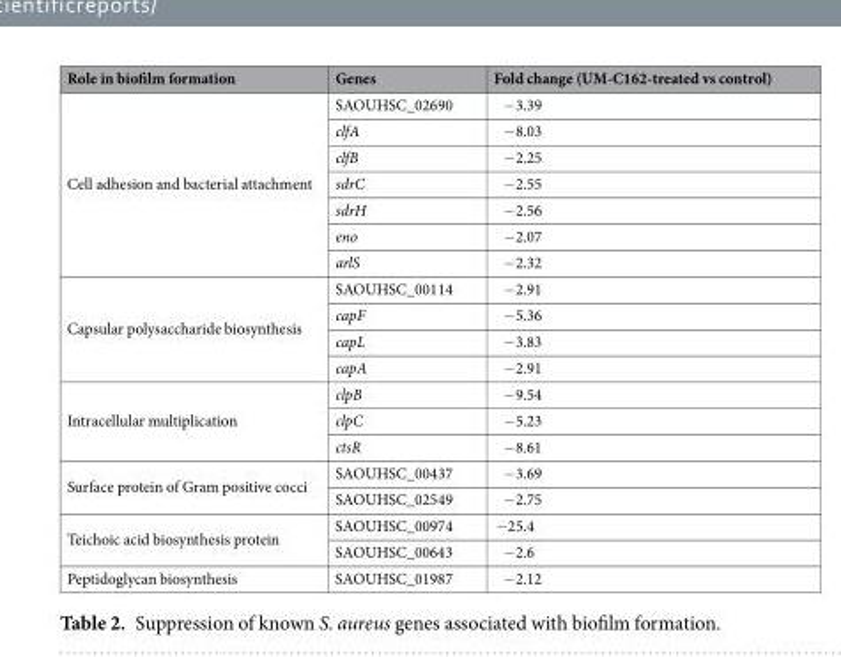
<table><thead><tr><td>Role in biofilm formation</td><td>Genes</td><td>Fold change (UM-C162-treated vs control)</td></tr></thead><tbody><tr><td rowspan="7">Cell adhesion and bacterial attachment</td><td>SAOUHSC_02690</td><td>−3.39</td></tr><tr><td>clfA</td><td>−8.03</td></tr><tr><td>clfB</td><td>−2.25</td></tr><tr><td>sdrC</td><td>−2.55</td></tr><tr><td>sdrH</td><td>−2.56</td></tr><tr><td>eno</td><td>−2.07</td></tr><tr><td>arlS</td><td>−2.32</td></tr><tr><td rowspan="4">Capsular polysaccharide biosynthesis</td><td>SAOUHSC_00114</td><td>−2.91</td></tr><tr><td>capF</td><td>−5.36</td></tr><tr><td>capL</td><td>−3.83</td></tr><tr><td>capA</td><td>−2.91</td></tr><tr><td rowspan="3">Intracellular multiplication</td><td>clpB</td><td>−9.54</td></tr><tr><td>clpC</td><td>−5.23</td></tr><tr><td>ctsR</td><td>−8.61</td></tr><tr><td rowspan="2">Surface protein of Gram positive cocci</td><td>SAOUHSC_00437</td><td>−3.69</td></tr><tr><td>SAOUHSC_02549</td><td>−2.75</td></tr><tr><td rowspan="2">Teichoic acid biosynthesis protein</td><td>SAOUHSC_00974</td><td>−25.4</td></tr><tr><td>SAOUHSC_00643</td><td>−2.6</td></tr><tr><td>Peptidoglycan biosynthesis</td><td>SAOUHSC_01987</td><td>−2.12</td></tr></tbody></table>